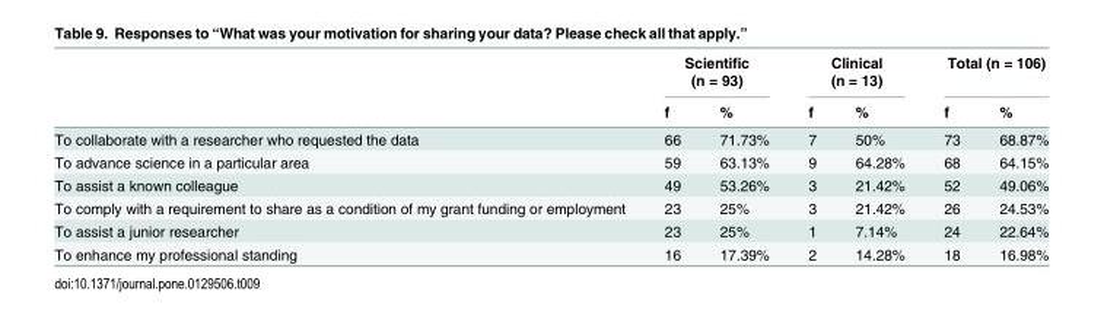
<table><thead><tr><td rowspan="2"></td><td colspan="2">Scientific (n = 93)</td><td colspan="2">Clinical (n = 13)</td><td colspan="2">Total (n = 106)</td></tr><tr><td>f</td><td>%</td><td>f</td><td>%</td><td>f</td><td>%</td></tr></thead><tbody><tr><td>To collaborate with a researcher who requested the data</td><td>66</td><td>71.73%</td><td>7</td><td>50%</td><td>73</td><td>68.87%</td></tr><tr><td>To advance science in a particular area</td><td>59</td><td>63.13%</td><td>9</td><td>64.28%</td><td>68</td><td>64.15%</td></tr><tr><td>To assist a known colleague</td><td>49</td><td>53.26%</td><td>3</td><td>21.42%</td><td>52</td><td>49.06%</td></tr><tr><td>To comply with a requirement to share as a condition of my grant funding or employment</td><td>23</td><td>25%</td><td>3</td><td>21.42%</td><td>26</td><td>24.53%</td></tr><tr><td>To assist a junior researcher</td><td>23</td><td>25%</td><td>1</td><td>7.14%</td><td>24</td><td>22.64%</td></tr><tr><td>To enhance my professional standing</td><td>16</td><td>17.39%</td><td>2</td><td>14.28%</td><td>18</td><td>16.98%</td></tr></tbody></table>